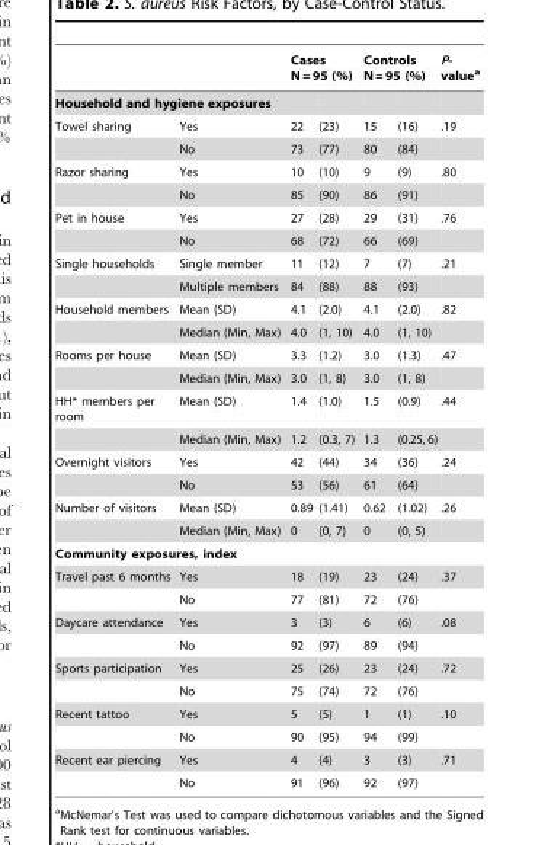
<table><thead><tr><td></td><td></td><td colspan="2">Cases N = 95 (%)</td><td colspan="2">Controls N = 95 (%)</td><td rowspan="2">P- value<sup>a</sup></td></tr><tr><td colspan="2">Household and hygiene exposures</td><td></td><td></td><td></td><td></td></tr></thead><tbody><tr><td rowspan="2">Towel sharing</td><td>Yes</td><td>22</td><td>(23)</td><td>15</td><td>(16)</td><td>.19</td></tr><tr><td>No</td><td>73</td><td>(77)</td><td>80</td><td>(84)</td><td></td></tr><tr><td rowspan="2">Razor sharing</td><td>Yes</td><td>10</td><td>(10)</td><td>9</td><td>(9)</td><td>.80</td></tr><tr><td>No</td><td>85</td><td>(90)</td><td>86</td><td>(91)</td><td></td></tr><tr><td rowspan="2">Pet in house</td><td>Yes</td><td>27</td><td>(28)</td><td>29</td><td>(31)</td><td>.76</td></tr><tr><td>No</td><td>68</td><td>(72)</td><td>66</td><td>(69)</td><td></td></tr><tr><td rowspan="2">Single households</td><td>Single member</td><td>11</td><td>(12)</td><td>7</td><td>(7)</td><td>.21</td></tr><tr><td>Multiple members</td><td>84</td><td>(88)</td><td>88</td><td>(93)</td><td></td></tr><tr><td rowspan="2">Household members</td><td>Mean (SD)</td><td>4.1</td><td>(2.0)</td><td>4.1</td><td>(2.0)</td><td>.82</td></tr><tr><td>Median (Min, Max)</td><td>4.0</td><td>(1, 10)</td><td>4.0</td><td>(1, 10)</td><td></td></tr><tr><td rowspan="2">Rooms per house</td><td>Mean (SD)</td><td>3.3</td><td>(1.2)</td><td>3.0</td><td>(1.3)</td><td>.47</td></tr><tr><td>Median (Min, Max)</td><td>3.0</td><td>(1, 8)</td><td>3.0</td><td>(1, 8)</td><td></td></tr><tr><td rowspan="2">HH* members per room</td><td>Mean (SD)</td><td>1.4</td><td>(1.0)</td><td>1.5</td><td>(0.9)</td><td>.44</td></tr><tr><td>Median (Min, Max)</td><td>1.2</td><td>(0.3, 7)</td><td>1.3</td><td>(0.25, 6)</td><td></td></tr><tr><td rowspan="2">Overnight visitors</td><td>Yes</td><td>42</td><td>(44)</td><td>34</td><td>(36)</td><td>.24</td></tr><tr><td>No</td><td>53</td><td>(56)</td><td>61</td><td>(64)</td><td></td></tr><tr><td rowspan="2">Number of visitors</td><td>Mean (SD)</td><td>0.89</td><td>(1.41)</td><td>0.62</td><td>(1.02)</td><td>.26</td></tr><tr><td>Median (Min, Max)</td><td>0</td><td>(0, 7)</td><td>0</td><td>(0, 5)</td><td></td></tr><tr><td colspan="7">Community exposures, index</td></tr><tr><td rowspan="2">Travel past 6 months</td><td>Yes</td><td>18</td><td>(19)</td><td>23</td><td>(24)</td><td>.37</td></tr><tr><td>No</td><td>77</td><td>(81)</td><td>72</td><td>(76)</td><td></td></tr><tr><td rowspan="2">Daycare attendance</td><td>Yes</td><td>3</td><td>(3)</td><td>6</td><td>(6)</td><td>.08</td></tr><tr><td>No</td><td>92</td><td>(97)</td><td>89</td><td>(94)</td><td></td></tr><tr><td rowspan="2">Sports participation</td><td>Yes</td><td>25</td><td>(26)</td><td>23</td><td>(24)</td><td>.72</td></tr><tr><td>No</td><td>75</td><td>(74)</td><td>72</td><td>(76)</td><td></td></tr><tr><td rowspan="2">Recent tattoo</td><td>Yes</td><td>5</td><td>(5)</td><td>1</td><td>(1)</td><td>.10</td></tr><tr><td>No</td><td>90</td><td>(95)</td><td>94</td><td>(99)</td><td></td></tr><tr><td rowspan="2">Recent ear piercing</td><td>Yes</td><td>4</td><td>(4)</td><td>3</td><td>(3)</td><td>.71</td></tr><tr><td>No</td><td>91</td><td>(96)</td><td>92</td><td>(97)</td><td></td></tr></tbody></table>